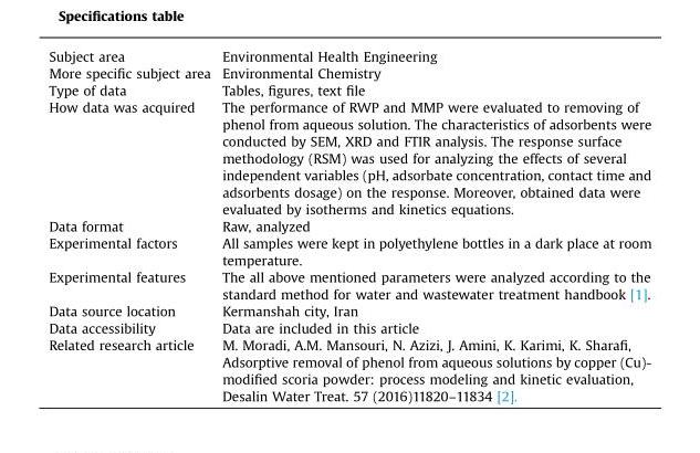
<table><tbody><tr><td>Subject area</td><td>Environmental Health Engineering</td></tr><tr><td>More specific subject area</td><td>Environmental Chemistry</td></tr><tr><td>Type of data</td><td>Tables, figures, text file</td></tr><tr><td>How data was acquired</td><td>The performance of RWP and MMP were evaluated to removing of phenol from aqueous solution. The characteristics of adsorbents were conducted by SEM, XRD and FTIR analysis. The response surface methodology (RSM) was used for analyzing the effects of several independent variables (pH, adsorbate concentration, contact time and adsorbents dosage) on the response. Moreover, obtained data were evaluated by isotherms and kinetics equations.</td></tr><tr><td>Data format</td><td>Raw, analyzed</td></tr><tr><td>Experimental factors</td><td>All samples were kept in polyethylene bottles in a dark place at room temperature.</td></tr><tr><td>Experimental features</td><td>The all above mentioned parameters were analyzed according to the standard method for water and wastewater treatment handbook [1].</td></tr><tr><td>Data source location</td><td>Kermanshah city, Iran</td></tr><tr><td>Data accessibility</td><td>Data are included in this article</td></tr><tr><td>Related research article</td><td>M. Moradi, A.M. Mansouri, N. Azizi, J. Amini, K. Karimi, K. Sharafi, Adsorptive removal of phenol from aqueous solutions by copper (Cu)- modified scoria powder: process modeling and kinetic evaluation, Desalin Water Treat. 57 (2016)11820–11834 [2].</td></tr></tbody></table>